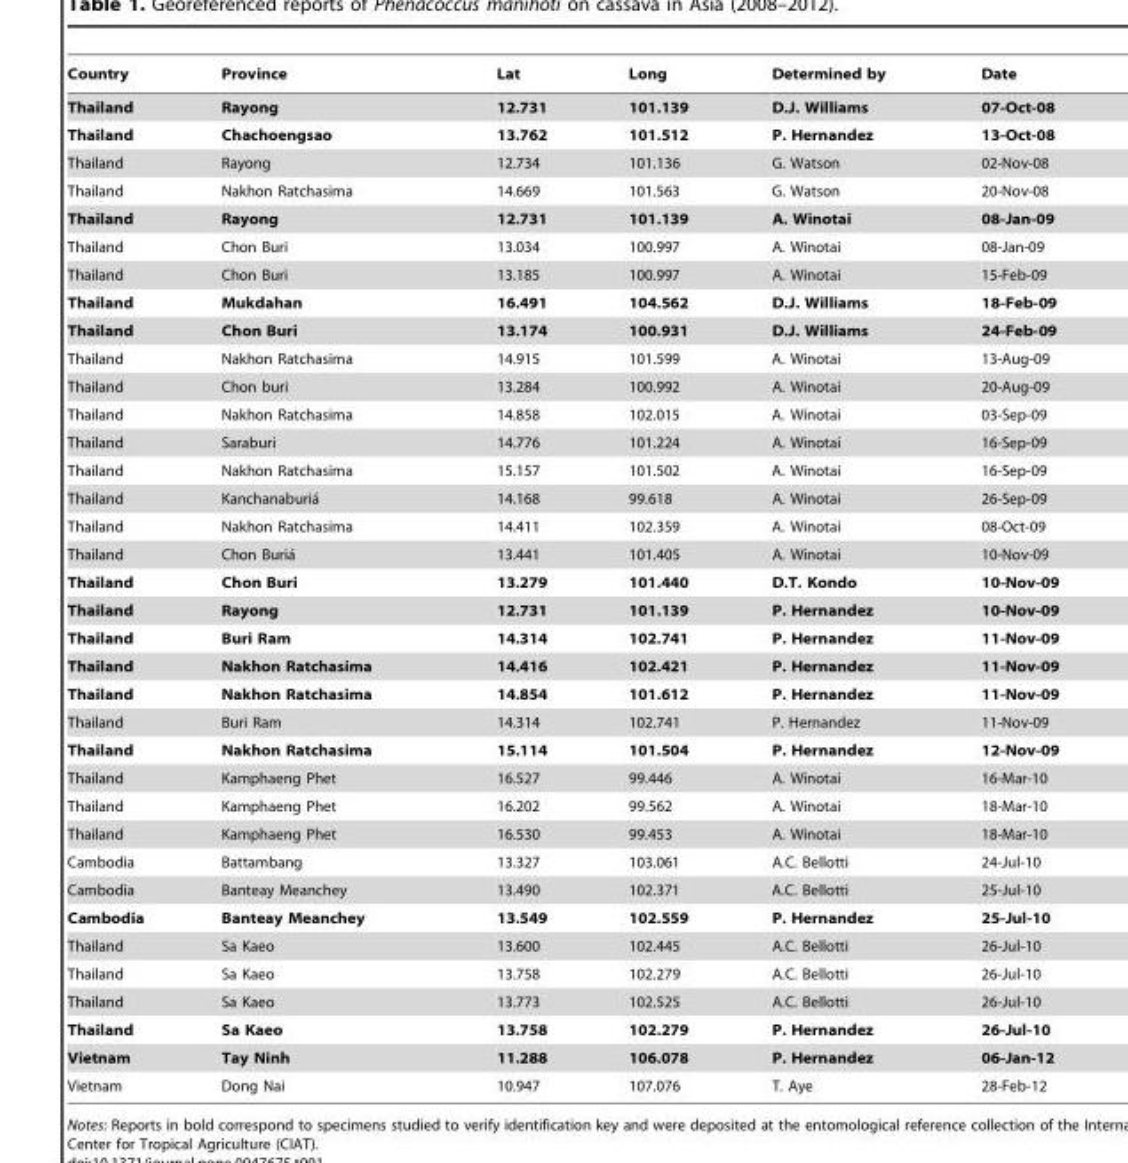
<table><thead><tr><td>Country</td><td>Province</td><td>Lat</td><td>Long</td><td>Determined by</td><td>Date</td></tr></thead><tbody><tr><td>Thailand</td><td>Rayong</td><td>12.731</td><td>101.139</td><td>D.J. Williams</td><td>07-Oct-08</td></tr><tr><td>Thailand</td><td>Chachoengsao</td><td>13.762</td><td>101.512</td><td>P. Hernandez</td><td>13-Oct-08</td></tr><tr><td>Thailand</td><td>Rayong</td><td>12.734</td><td>101.136</td><td>G. Watson</td><td>02-Nov-08</td></tr><tr><td>Thailand</td><td>Nakhon Ratchasima</td><td>14.669</td><td>101.563</td><td>G. Watson</td><td>20-Nov-08</td></tr><tr><td>Thailand</td><td>Rayong</td><td>12.731</td><td>101.139</td><td>A. Winotai</td><td>08-Jan-09</td></tr><tr><td>Thailand</td><td>Chon Buri</td><td>13.034</td><td>100.997</td><td>A. Winotai</td><td>08-Jan-09</td></tr><tr><td>Thailand</td><td>Chon Buri</td><td>13.185</td><td>100.997</td><td>A. Winotai</td><td>15-Feb-09</td></tr><tr><td>Thailand</td><td>Mukdahan</td><td>16.491</td><td>104.562</td><td>D.J. Williams</td><td>18-Feb-09</td></tr><tr><td>Thailand</td><td>Chon Buri</td><td>13.174</td><td>100.931</td><td>D.J. Williams</td><td>24-Feb-09</td></tr><tr><td>Thailand</td><td>Nakhon Ratchasima</td><td>14.915</td><td>101.599</td><td>A. Winotai</td><td>13-Aug-09</td></tr><tr><td>Thailand</td><td>Chon buri</td><td>13.284</td><td>100.992</td><td>A. Winotai</td><td>20-Aug-09</td></tr><tr><td>Thailand</td><td>Nakhon Ratchasima</td><td>14.858</td><td>102.015</td><td>A. Winotai</td><td>03-Sep-09</td></tr><tr><td>Thailand</td><td>Saraburi</td><td>14.776</td><td>101.224</td><td>A. Winotai</td><td>16-Sep-09</td></tr><tr><td>Thailand</td><td>Nakhon Ratchasima</td><td>15.157</td><td>101.502</td><td>A. Winotai</td><td>16-Sep-09</td></tr><tr><td>Thailand</td><td>Kanchanaburia´</td><td>14.168</td><td>99.618</td><td>A. Winotai</td><td>26-Sep-09</td></tr><tr><td>Thailand</td><td>Nakhon Ratchasima</td><td>14.411</td><td>102.359</td><td>A. Winotai</td><td>08-Oct-09</td></tr><tr><td>Thailand</td><td>Chon Buria´</td><td>13.441</td><td>101.405</td><td>A. Winotai</td><td>10-Nov-09</td></tr><tr><td>Thailand</td><td>Chon Buri</td><td>13.279</td><td>101.440</td><td>D.T. Kondo</td><td>10-Nov-09</td></tr><tr><td>Thailand</td><td>Rayong</td><td>12.731</td><td>101.139</td><td>P. Hernandez</td><td>10-Nov-09</td></tr><tr><td>Thailand</td><td>Buri Ram</td><td>14.314</td><td>102.741</td><td>P. Hernandez</td><td>11-Nov-09</td></tr><tr><td>Thailand</td><td>Nakhon Ratchasima</td><td>14.416</td><td>102.421</td><td>P. Hernandez</td><td>11-Nov-09</td></tr><tr><td>Thailand</td><td>Nakhon Ratchasima</td><td>14.854</td><td>101.612</td><td>P. Hernandez</td><td>11-Nov-09</td></tr><tr><td>Thailand</td><td>Buri Ram</td><td>14.314</td><td>102.741</td><td>P. Hernandez</td><td>11-Nov-09</td></tr><tr><td>Thailand</td><td>Nakhon Ratchasima</td><td>15.114</td><td>101.504</td><td>P. Hernandez</td><td>12-Nov-09</td></tr><tr><td>Thailand</td><td>Kamphaeng Phet</td><td>16.527</td><td>99.446</td><td>A. Winotai</td><td>16-Mar-10</td></tr><tr><td>Thailand</td><td>Kamphaeng Phet</td><td>16.202</td><td>99.562</td><td>A. Winotai</td><td>18-Mar-10</td></tr><tr><td>Thailand</td><td>Kamphaeng Phet</td><td>16.530</td><td>99.453</td><td>A. Winotai</td><td>18-Mar-10</td></tr><tr><td>Cambodia</td><td>Battambang</td><td>13.327</td><td>103.061</td><td>A.C. Bellotti</td><td>24-Jul-10</td></tr><tr><td>Cambodia</td><td>Banteay Meanchey</td><td>13.490</td><td>102.371</td><td>A.C. Bellotti</td><td>25-Jul-10</td></tr><tr><td>Cambodia</td><td>Banteay Meanchey</td><td>13.549</td><td>102.559</td><td>P. Hernandez</td><td>25-Jul-10</td></tr><tr><td>Thailand</td><td>Sa Kaeo</td><td>13.600</td><td>102.445</td><td>A.C. Bellotti</td><td>26-Jul-10</td></tr><tr><td>Thailand</td><td>Sa Kaeo</td><td>13.758</td><td>102.279</td><td>A.C. Bellotti</td><td>26-Jul-10</td></tr><tr><td>Thailand</td><td>Sa Kaeo</td><td>13.773</td><td>102.525</td><td>A.C. Bellotti</td><td>26-Jul-10</td></tr><tr><td>Thailand</td><td>Sa Kaeo</td><td>13.758</td><td>102.279</td><td>P. Hernandez</td><td>26-Jul-10</td></tr><tr><td>Vietnam</td><td>Tay Ninh</td><td>11.288</td><td>106.078</td><td>P. Hernandez</td><td>06-Jan-12</td></tr><tr><td>Vietnam</td><td>Dong Nai</td><td>10.947</td><td>107.076</td><td>T. Aye</td><td>28-Feb-12</td></tr></tbody></table>